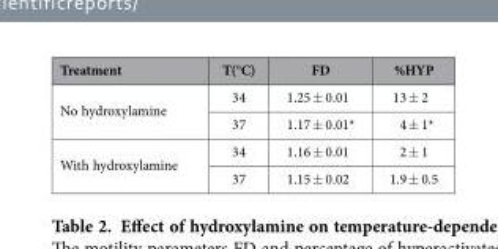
<table><thead><tr><td>Treatment</td><td>T(°C)</td><td>FD</td><td>%HYP</td></tr></thead><tbody><tr><td rowspan="2">No hydroxylamine</td><td>34</td><td>1.25 ± 0.01</td><td>13 ± 2</td></tr><tr><td>37</td><td>1.17 ± 0.01*</td><td>4 ± 1*</td></tr><tr><td rowspan="2">With hydroxylamine</td><td>34</td><td>1.16 ± 0.01</td><td>2 ± 1</td></tr><tr><td>37</td><td>1.15 ± 0.02</td><td>1.9 ± 0.5</td></tr></tbody></table>